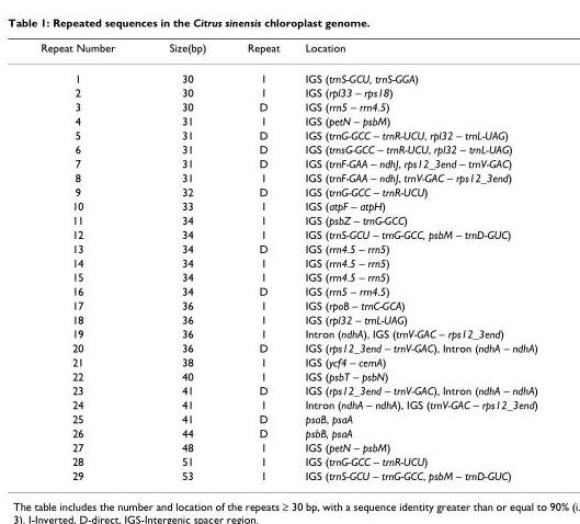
<table><thead><tr><td>Repeat Number</td><td>Size(bp)</td><td>Repeat</td><td>Location</td></tr></thead><tbody><tr><td>1</td><td>30</td><td>I</td><td>IGS (trnS-GCU, trnS-GGA)</td></tr><tr><td>2</td><td>30</td><td>I</td><td>IGS (rpl33 – rps18)</td></tr><tr><td>3</td><td>30</td><td>D</td><td>IGS (rrn5 – rrn4.5)</td></tr><tr><td>4</td><td>31</td><td>I</td><td>IGS (petN – psbM)</td></tr><tr><td>5</td><td>31</td><td>D</td><td>IGS (trnG-GCC – trnR-UCU, rpl32 – trnL-UAG)</td></tr><tr><td>6</td><td>31</td><td>D</td><td>IGS (trnsG-GCC – trnR-UCU, rpl32 – trnL-UAG)</td></tr><tr><td>7</td><td>31</td><td>D</td><td>IGS (trnF-GAA – ndhJ, rps12_3end – trnV-GAC)</td></tr><tr><td>8</td><td>31</td><td>I</td><td>IGS (trnF-GAA – ndhJ, trnV-GAC – rps12_3end)</td></tr><tr><td>9</td><td>32</td><td>D</td><td>IGS (trnG-GCC – trnR-UCU)</td></tr><tr><td>10</td><td>33</td><td>I</td><td>IGS (atpF – atpH)</td></tr><tr><td>11</td><td>34</td><td>I</td><td>IGS (psbZ – trnG-GCC)</td></tr><tr><td>12</td><td>34</td><td>I</td><td>IGS (trnS-GCU – trnG-GCC, psbM – trnD-GUC)</td></tr><tr><td>13</td><td>34</td><td>D</td><td>IGS (rrn4.5 – rrn5)</td></tr><tr><td>14</td><td>34</td><td>I</td><td>IGS (rrn4.5 – rrn5)</td></tr><tr><td>15</td><td>34</td><td>I</td><td>IGS (rrn4.5 – rrn5)</td></tr><tr><td>16</td><td>34</td><td>D</td><td>IGS (rrn5 – rrn4.5)</td></tr><tr><td>17</td><td>36</td><td>I</td><td>IGS (rpoB – trnC-GCA)</td></tr><tr><td>18</td><td>36</td><td>I</td><td>IGS (rpl32 – trnL-UAG)</td></tr><tr><td>19</td><td>36</td><td>I</td><td>Intron (ndhA), IGS (trnV-GAC – rps12_3end)</td></tr><tr><td>20</td><td>36</td><td>D</td><td>IGS (rps12_3end – trnV-GAC), Intron (ndhA – ndhA)</td></tr><tr><td>21</td><td>38</td><td>I</td><td>IGS (ycf4 – cemA)</td></tr><tr><td>22</td><td>40</td><td>I</td><td>IGS (psbT – psbN)</td></tr><tr><td>23</td><td>41</td><td>D</td><td>IGS (rps12_3end – trnV-GAC), Intron (ndhA – ndhA)</td></tr><tr><td>24</td><td>41</td><td>I</td><td>Intron (ndhA – ndhA), IGS (trnV-GAC – rps12_3end)</td></tr><tr><td>25</td><td>41</td><td>D</td><td>psaB, psaA</td></tr><tr><td>26</td><td>44</td><td>D</td><td>psbB, psaA</td></tr><tr><td>27</td><td>48</td><td>I</td><td>IGS (petN – psbM)</td></tr><tr><td>28</td><td>51</td><td>I</td><td>IGS (trnG-GCC – trnR-UCU)</td></tr><tr><td>29</td><td>53</td><td>I</td><td>IGS (trnS-GCU – trnG-GCC, psbM – trnD-GUC)</td></tr></tbody></table>